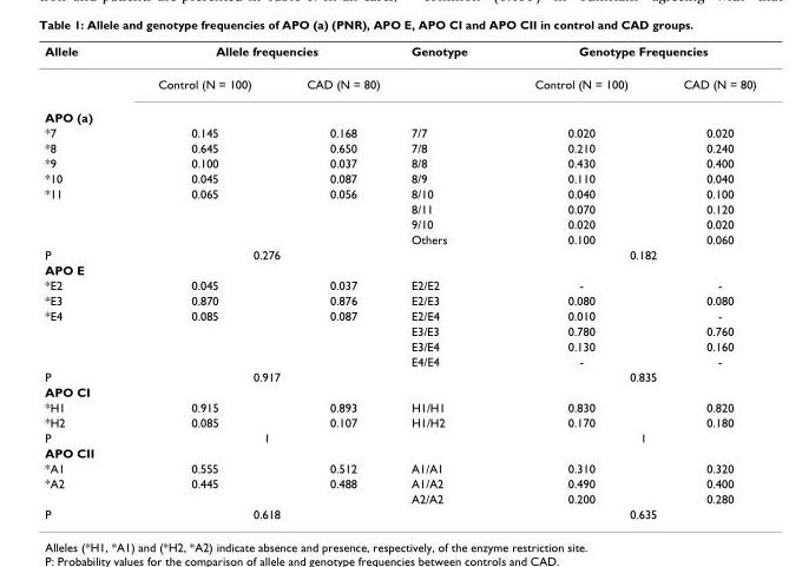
<table><thead><tr><td rowspan="2">Allele</td><td colspan="2">Allele frequencies</td><td rowspan="2">Genotype</td><td colspan="2">Genotype Frequencies</td></tr><tr><td>Control (N = 100)</td><td>CAD (N = 80)</td><td>Control (N = 100)</td><td>CAD (N = 80)</td></tr></thead><tbody><tr><td colspan="6">APO (a)</td></tr><tr><td>*7</td><td>0.145</td><td>0.168</td><td>7/7</td><td>0.020</td><td>0.020</td></tr><tr><td>*8</td><td>0.645</td><td>0.650</td><td>7/8</td><td>0.210</td><td>0.240</td></tr><tr><td>*9</td><td>0.100</td><td>0.037</td><td>8/8</td><td>0.430</td><td>0.400</td></tr><tr><td>*10</td><td>0.045</td><td>0.087</td><td>8/9</td><td>0.110</td><td>0.040</td></tr><tr><td rowspan="4">*11</td><td>0.065</td><td>0.056</td><td>8/10</td><td>0.040</td><td>0.100</td></tr><tr><td></td><td></td><td>8/11</td><td>0.070</td><td>0.120</td></tr><tr><td></td><td></td><td>9/10</td><td>0.020</td><td>0.020</td></tr><tr><td></td><td></td><td>Others</td><td>0.100</td><td>0.060</td></tr><tr><td>P</td><td colspan="2">0.276</td><td></td><td colspan="2">0.182</td></tr><tr><td colspan="6">APO E</td></tr><tr><td>*E2</td><td>0.045</td><td>0.037</td><td>E2/E2</td><td>-</td><td>-</td></tr><tr><td>*E3</td><td>0.870</td><td>0.876</td><td>E2/E3</td><td>0.080</td><td>0.080</td></tr><tr><td rowspan="4">*E4</td><td>0.085</td><td>0.087</td><td>E2/E4</td><td>0.010</td><td>-</td></tr><tr><td></td><td></td><td>E3/E3</td><td>0.780</td><td>0.760</td></tr><tr><td></td><td></td><td>E3/E4</td><td>0.130</td><td>0.160</td></tr><tr><td></td><td></td><td>E4/E4</td><td>-</td><td>-</td></tr><tr><td>P</td><td colspan="2">0.917</td><td></td><td colspan="2">0.835</td></tr><tr><td colspan="6">APO CI</td></tr><tr><td>*H1</td><td>0.915</td><td>0.893</td><td>H1/H1</td><td>0.830</td><td>0.820</td></tr><tr><td>*H2</td><td>0.085</td><td>0.107</td><td>H1/H2</td><td>0.170</td><td>0.180</td></tr><tr><td>P</td><td colspan="2">1</td><td></td><td colspan="2">1</td></tr><tr><td colspan="6">APO CII</td></tr><tr><td>*A1</td><td>0.555</td><td>0.512</td><td>A1/A1</td><td>0.310</td><td>0.320</td></tr><tr><td rowspan="2">*A2</td><td>0.445</td><td>0.488</td><td>A1/A2</td><td>0.490</td><td>0.400</td></tr><tr><td></td><td></td><td>A2/A2</td><td>0.200</td><td>0.280</td></tr><tr><td>P</td><td colspan="2">0.618</td><td></td><td colspan="2">0.635</td></tr></tbody></table>